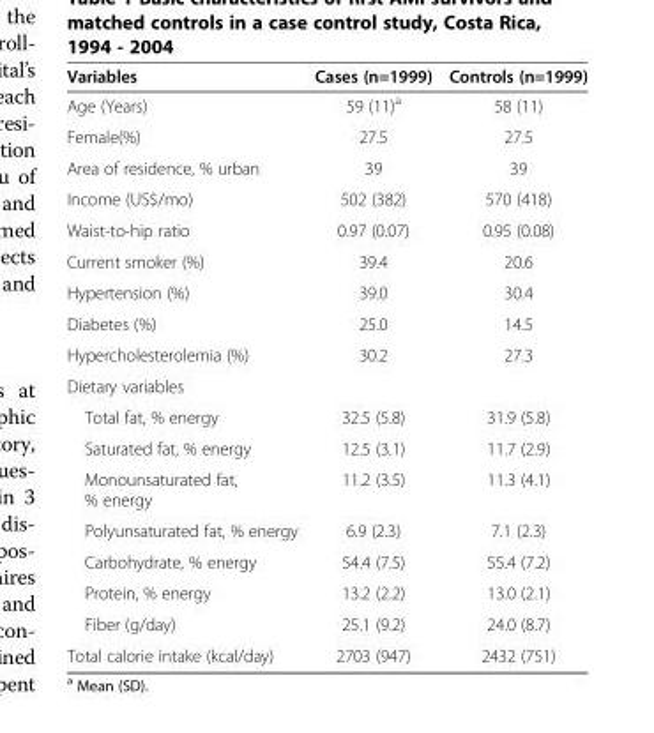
<table><thead><tr><td>Variables</td><td>Cases (n=1999)</td><td>Controls (n=1999)</td></tr></thead><tbody><tr><td>Age (Years)</td><td>59 (11)<sup>a</sup></td><td>58 (11)</td></tr><tr><td>Female(%)</td><td>27.5</td><td>27.5</td></tr><tr><td>Area of residence, % urban</td><td>39</td><td>39</td></tr><tr><td>Income (US$/mo)</td><td>502 (382)</td><td>570 (418)</td></tr><tr><td>Waist-to-hip ratio</td><td>0.97 (0.07)</td><td>0.95 (0.08)</td></tr><tr><td>Current smoker (%)</td><td>39.4</td><td>20.6</td></tr><tr><td>Hypertension (%)</td><td>39.0</td><td>30.4</td></tr><tr><td>Diabetes (%)</td><td>25.0</td><td>14.5</td></tr><tr><td>Hypercholesterolemia (%)</td><td>30.2</td><td>27.3</td></tr><tr><td colspan="3">Dietary variables</td></tr><tr><td>Total fat, % energy</td><td>32.5 (5.8)</td><td>31.9 (5.8)</td></tr><tr><td>Saturated fat, % energy</td><td>12.5 (3.1)</td><td>11.7 (2.9)</td></tr><tr><td>Monounsaturated fat, % energy</td><td>11.2 (3.5)</td><td>11.3 (4.1)</td></tr><tr><td>Polyunsaturated fat, % energy</td><td>6.9 (2.3)</td><td>7.1 (2.3)</td></tr><tr><td>Carbohydrate, % energy</td><td>54.4 (7.5)</td><td>55.4 (7.2)</td></tr><tr><td>Protein, % energy</td><td>13.2 (2.2)</td><td>13.0 (2.1)</td></tr><tr><td>Fiber (g/day)</td><td>25.1 (9.2)</td><td>24.0 (8.7)</td></tr><tr><td>Total calorie intake (kcal/day)</td><td>2703 (947)</td><td>2432 (751)</td></tr></tbody></table>